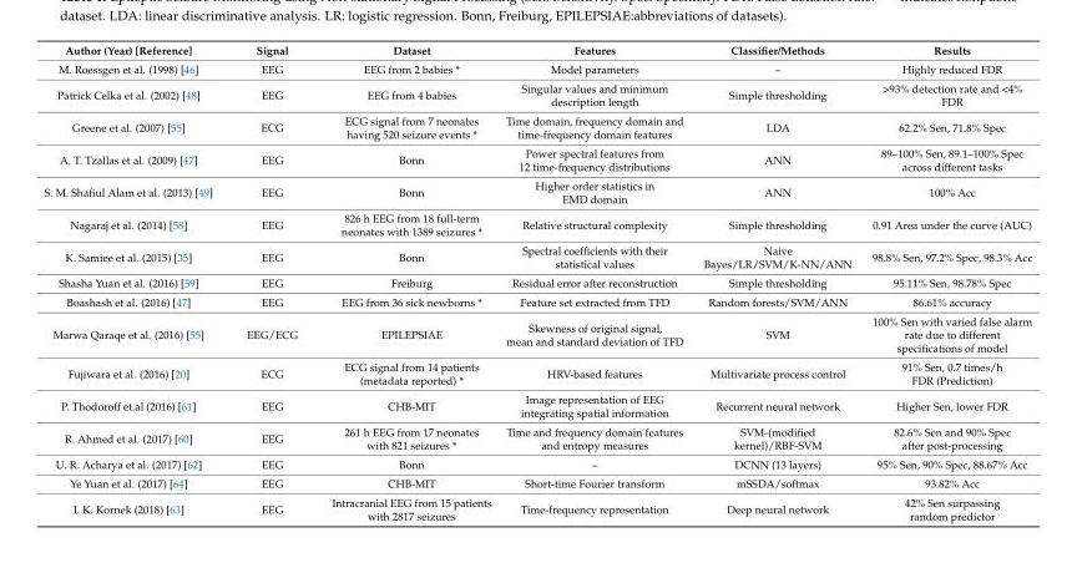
<table><thead><tr><td>Author (Year) [Reference]</td><td>Signal</td><td>Dataset</td><td>Features</td><td>Classifier/Methods</td><td>Results</td></tr></thead><tbody><tr><td>M. Roessgen et al. (1998) [46]</td><td>EEG</td><td>EEG from 2 babies *</td><td>Model parameters</td><td>–</td><td>Highly reduced FDR</td></tr><tr><td>Patrick Celka et al. (2002) [48]</td><td>EEG</td><td>EEG from 4 babies</td><td>Singular values and minimum description length</td><td>Simple thresholding</td><td>&gt;93% detection rate and &lt;4% FDR</td></tr><tr><td>Greene et al. (2007) [55]</td><td>ECG</td><td>ECG signal from 7 neonates having 520 seizure events *</td><td>Time domain, frequency domain and time-frequency domain features</td><td>LDA</td><td>62.2% Sen, 71.8% Spec</td></tr><tr><td>A. T. Tzallas et al. (2009) [47]</td><td>EEG</td><td>Bonn</td><td>Power spectral features from 12 time-frequency distributions</td><td>ANN</td><td>89–100% Sen, 89.1–100% Spec across different tasks</td></tr><tr><td>S. M. Shafiul Alam et al. (2013) [49]</td><td>EEG</td><td>Bonn</td><td>Higher order statistics in EMD domain</td><td>ANN</td><td>100% Acc</td></tr><tr><td>Nagaraj et al. (2014) [58]</td><td>EEG</td><td>826 h EEG from 18 full-term neonates with 1389 seizures *</td><td>Relative structural complexity</td><td>Simple thresholding</td><td>0.91 Area under the curve (AUC)</td></tr><tr><td>K. Samiee et al. (2015) [35]</td><td>EEG</td><td>Bonn</td><td>Spectral coefficients with their statistical values</td><td>Naive Bayes/LR/SVM/K-NN/ANN</td><td>98.8% Sen, 97.2% Spec, 98.3% Acc</td></tr><tr><td>Shasha Yuan et al. (2016) [59]</td><td>EEG</td><td>Freiburg</td><td>Residual error after reconstruction</td><td>Simple thresholding</td><td>95.11% Sen, 98.78% Spec</td></tr><tr><td>Boashash et al. (2016) [47]</td><td>EEG</td><td>EEG from 36 sick newborns *</td><td>Feature set extracted from TFD</td><td>Random forests/SVM/ANN</td><td>86.61% accuracy</td></tr><tr><td>Marwa Qaraqe et al. (2016) [55]</td><td>EEG/ECG</td><td>EPILEPSIAE</td><td>Skewness of original signal, mean and standard deviation of TFD</td><td>SVM</td><td>100% Sen with varied false alarm rate due to different specifications of model</td></tr><tr><td>Fujiwara et al. (2016) [20]</td><td>ECG</td><td>ECG signal from 14 patients (metadata reported) *</td><td>HRV-based features</td><td>Multivariate process control</td><td>91% Sen, 0.7 times/h FDR (Prediction)</td></tr><tr><td>P. Thodoroff et.al (2016) [61]</td><td>EEG</td><td>CHB-MIT</td><td>Image representation of EEG integrating spatial information</td><td>Recurrent neural network</td><td>Higher Sen, lower FDR</td></tr><tr><td>R. Ahmed et al. (2017) [60]</td><td>EEG</td><td>261 h EEG from 17 neonates with 821 seizures *</td><td>Time and frequency domain features and entropy measures</td><td>SVM-(modified kernel)/RBF-SVM</td><td>82.6% Sen and 90% Spec after post-processing</td></tr><tr><td>U. R. Acharya et al. (2017) [62]</td><td>EEG</td><td>Bonn</td><td>–</td><td>DCNN (13 layers)</td><td>95% Sen, 90% Spec, 88.67% Acc</td></tr><tr><td>Ye Yuan et al. (2017) [64]</td><td>EEG</td><td>CHB-MIT</td><td>Short-time Fourier transform</td><td>mSSDA/softmax</td><td>93.82% Acc</td></tr><tr><td>I. K. Kornek (2018) [63]</td><td>EEG</td><td>Intracranial EEG from 15 patients with 2817 seizures</td><td>Time-frequency representation</td><td>Deep neural network</td><td>42% Sen surpassing random predictor</td></tr></tbody></table>